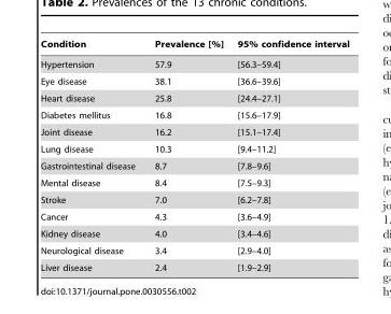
<table><thead><tr><td>Condition</td><td>Prevalence [%]</td><td>95% confidence interval</td></tr></thead><tbody><tr><td>Hypertension</td><td>57.9</td><td>[56.3–59.4]</td></tr><tr><td>Eye disease</td><td>38.1</td><td>[36.6–39.6]</td></tr><tr><td>Heart disease</td><td>25.8</td><td>[24.4–27.1]</td></tr><tr><td>Diabetes mellitus</td><td>16.8</td><td>[15.6–17.9]</td></tr><tr><td>Joint disease</td><td>16.2</td><td>[15.1–17.4]</td></tr><tr><td>Lung disease</td><td>10.3</td><td>[9.4–11.2]</td></tr><tr><td>Gastrointestinal disease</td><td>8.7</td><td>[7.8–9.6]</td></tr><tr><td>Mental disease</td><td>8.4</td><td>[7.5–9.3]</td></tr><tr><td>Stroke</td><td>7.0</td><td>[6.2–7.8]</td></tr><tr><td>Cancer</td><td>4.3</td><td>[3.6–4.9]</td></tr><tr><td>Kidney disease</td><td>4.0</td><td>[3.4–4.6]</td></tr><tr><td>Neurological disease</td><td>3.4</td><td>[2.9–4.0]</td></tr><tr><td>Liver disease</td><td>2.4</td><td>[1.9–2.9]</td></tr></tbody></table>